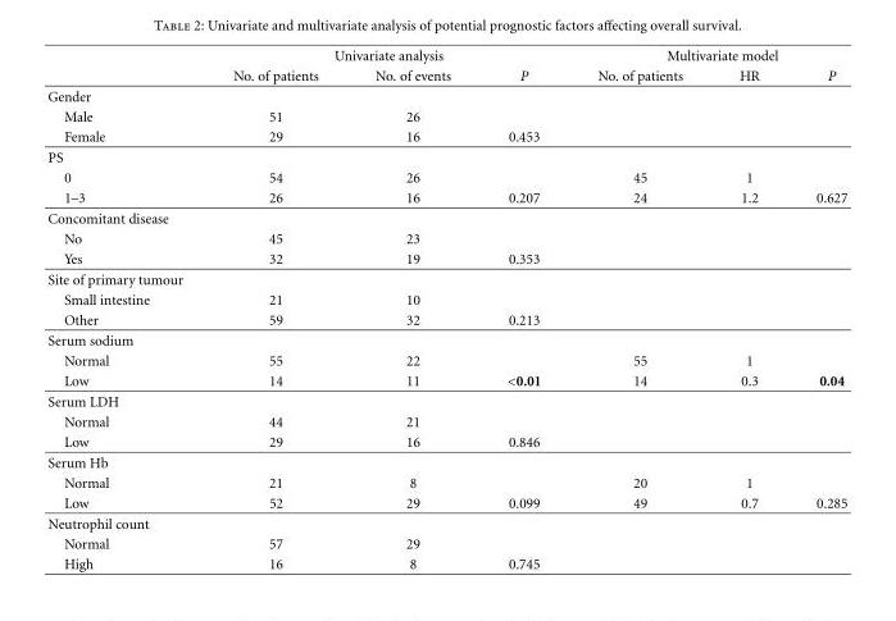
<table><thead><tr><td rowspan="2"></td><td colspan="3">Univariate analysis</td><td colspan="3">Multivariate model</td></tr><tr><td>No. of patients</td><td>No. of events</td><td>P</td><td>No. of patients</td><td>HR</td><td>P</td></tr></thead><tbody><tr><td colspan="7">Gender</td></tr><tr><td>Male</td><td>51</td><td>26</td><td></td><td></td><td></td><td></td></tr><tr><td>Female</td><td>29</td><td>16</td><td>0.453</td><td></td><td></td><td></td></tr><tr><td colspan="7">PS</td></tr><tr><td>0</td><td>54</td><td>26</td><td></td><td>45</td><td>1</td><td></td></tr><tr><td>1–3</td><td>26</td><td>16</td><td>0.207</td><td>24</td><td>1.2</td><td>0.627</td></tr><tr><td colspan="7">Concomitant disease</td></tr><tr><td>No</td><td>45</td><td>23</td><td></td><td></td><td></td><td></td></tr><tr><td>Yes</td><td>32</td><td>19</td><td>0.353</td><td></td><td></td><td></td></tr><tr><td colspan="7">Site of primary tumour</td></tr><tr><td>Small intestine</td><td>21</td><td>10</td><td></td><td></td><td></td><td></td></tr><tr><td>Other</td><td>59</td><td>32</td><td>0.213</td><td></td><td></td><td></td></tr><tr><td colspan="7">Serum sodium</td></tr><tr><td>Normal</td><td>55</td><td>22</td><td></td><td>55</td><td>1</td><td></td></tr><tr><td>Low</td><td>14</td><td>11</td><td>&lt;0.01</td><td>14</td><td>0.3</td><td>0.04</td></tr><tr><td colspan="7">Serum LDH</td></tr><tr><td>Normal</td><td>44</td><td>21</td><td></td><td></td><td></td><td></td></tr><tr><td>Low</td><td>29</td><td>16</td><td>0.846</td><td></td><td></td><td></td></tr><tr><td colspan="7">Serum Hb</td></tr><tr><td>Normal</td><td>21</td><td>8</td><td></td><td>20</td><td>1</td><td></td></tr><tr><td>Low</td><td>52</td><td>29</td><td>0.099</td><td>49</td><td>0.7</td><td>0.285</td></tr><tr><td colspan="7">Neutrophil count</td></tr><tr><td>Normal</td><td>57</td><td>29</td><td></td><td></td><td></td><td></td></tr><tr><td>High</td><td>16</td><td>8</td><td>0.745</td><td></td><td></td><td></td></tr></tbody></table>